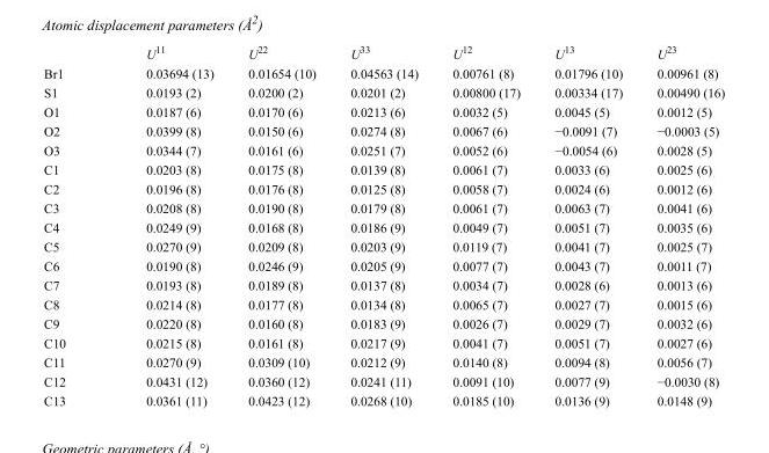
<table><thead><tr><td></td><td>U<sup>11</sup></td><td>U<sup>22</sup></td><td>U<sup>33</sup></td><td>U<sup>12</sup></td><td>U<sup>13</sup></td><td>U<sup>23</sup></td></tr></thead><tbody><tr><td>Br1</td><td>0.03694 (13)</td><td>0.01654 (10)</td><td>0.04563 (14)</td><td>0.00761 (8)</td><td>0.01796 (10)</td><td>0.00961 (8)</td></tr><tr><td>S1</td><td>0.0193 (2)</td><td>0.0200 (2)</td><td>0.0201 (2)</td><td>0.00800 (17)</td><td>0.00334 (17)</td><td>0.00490 (16)</td></tr><tr><td>O1</td><td>0.0187 (6)</td><td>0.0170 (6)</td><td>0.0213 (6)</td><td>0.0032 (5)</td><td>0.0045 (5)</td><td>0.0012 (5)</td></tr><tr><td>O2</td><td>0.0399 (8)</td><td>0.0150 (6)</td><td>0.0274 (8)</td><td>0.0067 (6)</td><td>−0.0091 (7)</td><td>−0.0003 (5)</td></tr><tr><td>O3</td><td>0.0344 (7)</td><td>0.0161 (6)</td><td>0.0251 (7)</td><td>0.0052 (6)</td><td>−0.0054 (6)</td><td>0.0028 (5)</td></tr><tr><td>C1</td><td>0.0203 (8)</td><td>0.0175 (8)</td><td>0.0139 (8)</td><td>0.0061 (7)</td><td>0.0033 (6)</td><td>0.0025 (6)</td></tr><tr><td>C2</td><td>0.0196 (8)</td><td>0.0176 (8)</td><td>0.0125 (8)</td><td>0.0058 (7)</td><td>0.0024 (6)</td><td>0.0012 (6)</td></tr><tr><td>C3</td><td>0.0208 (8)</td><td>0.0190 (8)</td><td>0.0179 (8)</td><td>0.0061 (7)</td><td>0.0063 (7)</td><td>0.0041 (6)</td></tr><tr><td>C4</td><td>0.0249 (9)</td><td>0.0168 (8)</td><td>0.0186 (9)</td><td>0.0049 (7)</td><td>0.0051 (7)</td><td>0.0035 (6)</td></tr><tr><td>C5</td><td>0.0270 (9)</td><td>0.0209 (8)</td><td>0.0203 (9)</td><td>0.0119 (7)</td><td>0.0041 (7)</td><td>0.0025 (7)</td></tr><tr><td>C6</td><td>0.0190 (8)</td><td>0.0246 (9)</td><td>0.0205 (9)</td><td>0.0077 (7)</td><td>0.0043 (7)</td><td>0.0011 (7)</td></tr><tr><td>C7</td><td>0.0193 (8)</td><td>0.0189 (8)</td><td>0.0137 (8)</td><td>0.0034 (7)</td><td>0.0028 (6)</td><td>0.0013 (6)</td></tr><tr><td>C8</td><td>0.0214 (8)</td><td>0.0177 (8)</td><td>0.0134 (8)</td><td>0.0065 (7)</td><td>0.0027 (7)</td><td>0.0015 (6)</td></tr><tr><td>C9</td><td>0.0220 (8)</td><td>0.0160 (8)</td><td>0.0183 (9)</td><td>0.0026 (7)</td><td>0.0029 (7)</td><td>0.0032 (6)</td></tr><tr><td>C10</td><td>0.0215 (8)</td><td>0.0161 (8)</td><td>0.0217 (9)</td><td>0.0041 (7)</td><td>0.0051 (7)</td><td>0.0027 (6)</td></tr><tr><td>C11</td><td>0.0270 (9)</td><td>0.0309 (10)</td><td>0.0212 (9)</td><td>0.0140 (8)</td><td>0.0094 (8)</td><td>0.0056 (7)</td></tr><tr><td>C12</td><td>0.0431 (12)</td><td>0.0360 (12)</td><td>0.0241 (11)</td><td>0.0091 (10)</td><td>0.0077 (9)</td><td>−0.0030 (8)</td></tr><tr><td>C13</td><td>0.0361 (11)</td><td>0.0423 (12)</td><td>0.0268 (10)</td><td>0.0185 (10)</td><td>0.0136 (9)</td><td>0.0148 (9)</td></tr></tbody></table>